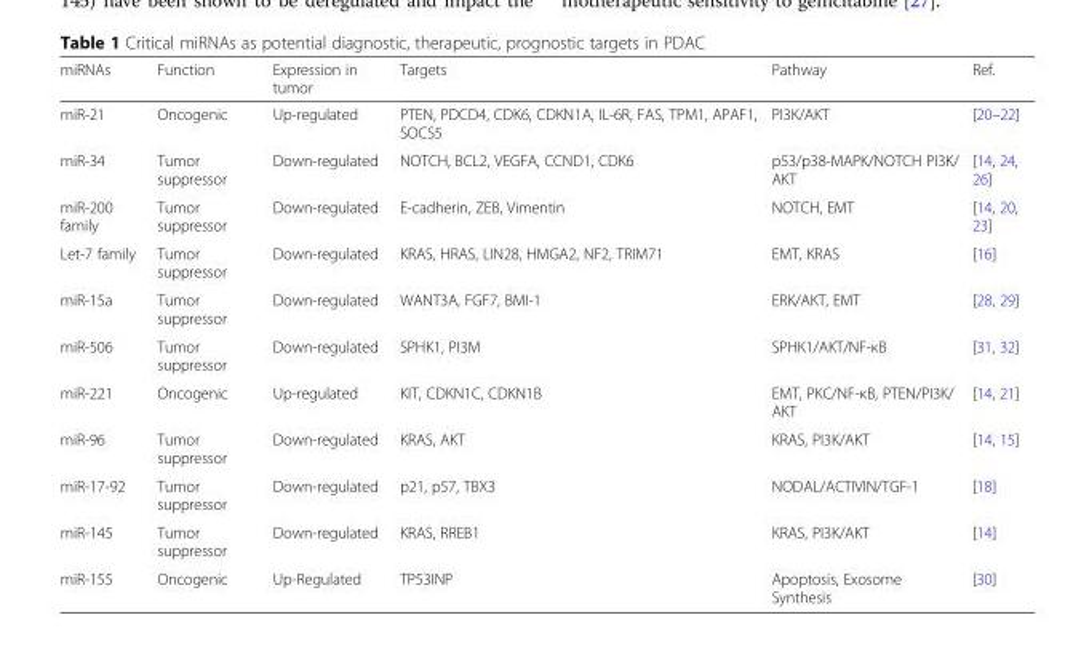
<table><thead><tr><td>miRNAs</td><td>Function</td><td>Expression in tumor</td><td>Targets</td><td>Pathway</td><td>Ref.</td></tr></thead><tbody><tr><td>miR-21</td><td>Oncogenic</td><td>Up-regulated</td><td>PTEN, PDCD4, CDK6, CDKN1A, IL-6R, FAS, TPM1, APAF1, SOCS5</td><td>PI3K/AKT</td><td>[20–22]</td></tr><tr><td>miR-34</td><td>Tumor suppressor</td><td>Down-regulated</td><td>NOTCH, BCL2, VEGFA, CCND1, CDK6</td><td>p53/p38-MAPK/NOTCH PI3K/ AKT</td><td>[14, 24, 26]</td></tr><tr><td>miR-200 family</td><td>Tumor suppressor</td><td>Down-regulated</td><td>E-cadherin, ZEB, Vimentin</td><td>NOTCH, EMT</td><td>[14, 20, 23]</td></tr><tr><td>Let-7 family</td><td>Tumor suppressor</td><td>Down-regulated</td><td>KRAS, HRAS, LIN28, HMGA2, NF2, TRIM71</td><td>EMT, KRAS</td><td>[16]</td></tr><tr><td>miR-15a</td><td>Tumor suppressor</td><td>Down-regulated</td><td>WANT3A, FGF7, BMI-1</td><td>ERK/AKT, EMT</td><td>[28, 29]</td></tr><tr><td>miR-506</td><td>Tumor suppressor</td><td>Down-regulated</td><td>SPHK1, PI3M</td><td>SPHK1/AKT/NF-κB</td><td>[31, 32]</td></tr><tr><td>miR-221</td><td>Oncogenic</td><td>Up-regulated</td><td>KIT, CDKN1C, CDKN1B</td><td>EMT, PKC/NF-κB, PTEN/PI3K/ AKT</td><td>[14, 21]</td></tr><tr><td>miR-96</td><td>Tumor suppressor</td><td>Down-regulated</td><td>KRAS, AKT</td><td>KRAS, PI3K/AKT</td><td>[14, 15]</td></tr><tr><td>miR-17-92</td><td>Tumor suppressor</td><td>Down-regulated</td><td>p21, p57, TBX3</td><td>NODAL/ACTIVIN/TGF-1</td><td>[18]</td></tr><tr><td>miR-145</td><td>Tumor suppressor</td><td>Down-regulated</td><td>KRAS, RREB1</td><td>KRAS, PI3K/AKT</td><td>[14]</td></tr><tr><td>miR-155</td><td>Oncogenic</td><td>Up-Regulated</td><td>TP53INP</td><td>Apoptosis, Exosome Synthesis</td><td>[30]</td></tr></tbody></table>